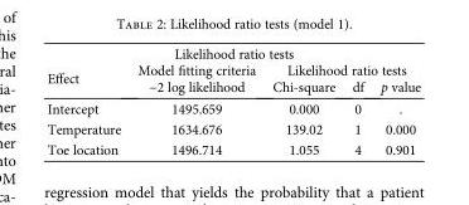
<table><thead><tr><td colspan="5">Likelihood ratio tests</td></tr><tr><td rowspan="2">Effect</td><td rowspan="2">Model fitting criteria −2 log likelihood</td><td colspan="3">Likelihood ratio tests</td></tr><tr><td>Chi-square</td><td>df</td><td>p value</td></tr></thead><tbody><tr><td>Intercept</td><td>1495.659</td><td>0.000</td><td>0</td><td>.</td></tr><tr><td>Temperature</td><td>1634.676</td><td>139.02</td><td>1</td><td>0.000</td></tr><tr><td>Toe location</td><td>1496.714</td><td>1.055</td><td>4</td><td>0.901</td></tr></tbody></table>